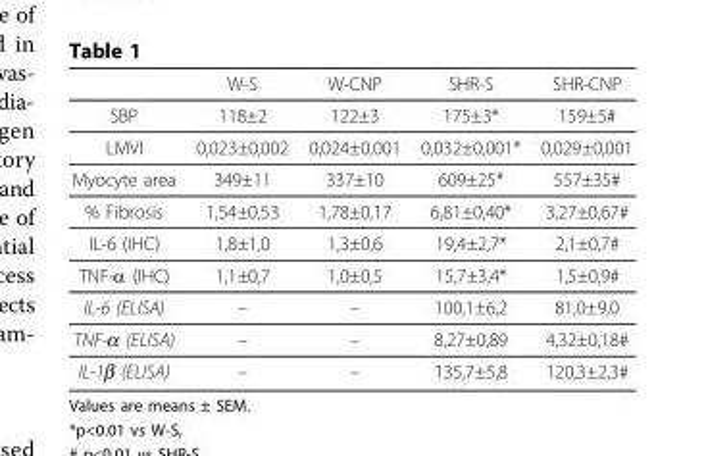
<table><thead><tr><td></td><td>W-S</td><td>W-CNP</td><td>SHR-S</td><td>SHR-CNP</td></tr></thead><tbody><tr><td>SBP</td><td>118±2</td><td>122±3</td><td>175±3*</td><td>159±5#</td></tr><tr><td>LMVI</td><td>0,023±0,002</td><td>0,024±0,001</td><td>0,032±0,001*</td><td>0,029±0,001</td></tr><tr><td>Myocyte area</td><td>349±11</td><td>337±10</td><td>609±25*</td><td>557±35#</td></tr><tr><td>% Fibrosis</td><td>1,54±0,53</td><td>1,78±0,17</td><td>6,81±0,40*</td><td>3,27±0,67#</td></tr><tr><td>IL-6 (IHC)</td><td>1,8±1,0</td><td>1,3±0,6</td><td>19,4±2,7*</td><td>2,1±0,7#</td></tr><tr><td>TNF-α (IHC)</td><td>1,1±0,7</td><td>1,0±0,5</td><td>15,7±3,4*</td><td>1,5±0,9#</td></tr><tr><td>IL-6 (ELISA)</td><td>–</td><td>–</td><td>100,1±6,2</td><td>81,0±9,0</td></tr><tr><td>TNF-α (ELISA)</td><td>–</td><td>–</td><td>8,27±0,89</td><td>4,32±0,18#</td></tr><tr><td>IL-1β (ELISA)</td><td>–</td><td>–</td><td>135,7±5,8</td><td>120,3±2,3#</td></tr></tbody></table>